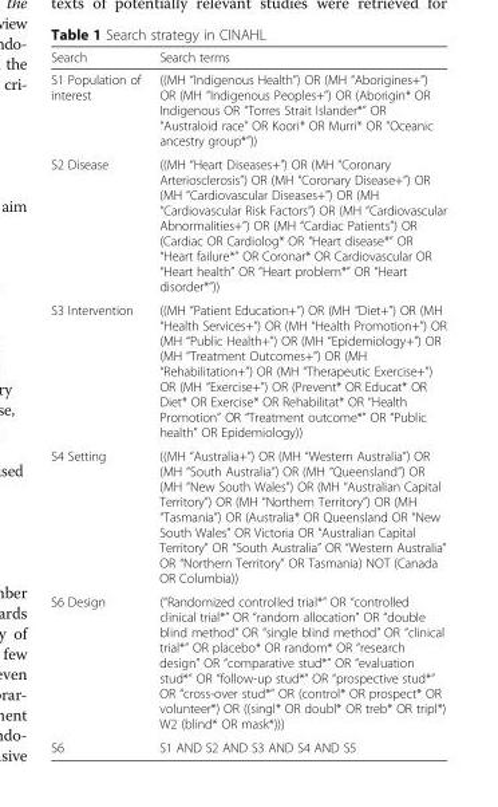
<table><thead><tr><td>Search</td><td>Search terms</td></tr></thead><tbody><tr><td>S1 Population of interest</td><td>((MH “Indigenous Health”) OR (MH “Aborigines+”) OR (MH “Indigenous Peoples+”) OR (Aborigin* OR Indigenous OR “Torres Strait Islander*” OR “Australoid race” OR Koori* OR Murri* OR “Oceanic ancestry group*”))</td></tr><tr><td>S2 Disease</td><td>((MH “Heart Diseases+”) OR (MH “Coronary Arteriosclerosis”) OR (MH “Coronary Disease+”) OR (MH “Cardiovascular Diseases+”) OR (MH “Cardiovascular Risk Factors”) OR (MH “Cardiovascular Abnormalities+”) OR (MH “Cardiac Patients”) OR (Cardiac OR Cardiolog* OR “Heart disease*” OR “Heart failure*” OR Coronar* OR Cardiovascular OR “Heart health” OR “Heart problem*” OR “Heart disorder*”))</td></tr><tr><td>S3 Intervention</td><td>((MH “Patient Education+”) OR (MH “Diet+”) OR (MH “Health Services+”) OR (MH “Health Promotion+”) OR (MH “Public Health+”) OR (MH “Epidemiology+”) OR (MH “Treatment Outcomes+”) OR (MH “Rehabilitation+”) OR (MH “Therapeutic Exercise+”) OR (MH “Exercise+”) OR (Prevent* OR Educat* OR Diet* OR Exercise* OR Rehabilitat* OR “Health Promotion” OR “Treatment outcome*” OR “Public health” OR Epidemiology))</td></tr><tr><td>S4 Setting</td><td>((MH “Australia+”) OR (MH “Western Australia”) OR (MH “South Australia”) OR (MH “Queensland”) OR (MH “New South Wales”) OR (MH “Australian Capital Territory”) OR (MH “Northern Territory”) OR (MH “Tasmania”) OR (Australia* OR Queensland OR “New South Wales” OR Victoria OR “Australian Capital Territory” OR “South Australia” OR “Western Australia” OR “Northern Territory” OR Tasmania) NOT (Canada OR Columbia))</td></tr><tr><td>S6 Design</td><td>(“Randomized controlled trial*” OR “controlled clinical trial*” OR “random allocation” OR “double blind method” OR “single blind method” OR “clinical trial*” OR placebo* OR random* OR “research design” OR “comparative stud*” OR “evaluation stud*” OR “follow-up stud*” OR “prospective stud*” OR “cross-over stud*” OR (control* OR prospect* OR volunteer*) OR ((singl* OR doubl* OR treb* OR tripl*) W2 (blind* OR mask*)))</td></tr><tr><td>S6</td><td>S1 AND S2 AND S3 AND S4 AND S5</td></tr></tbody></table>